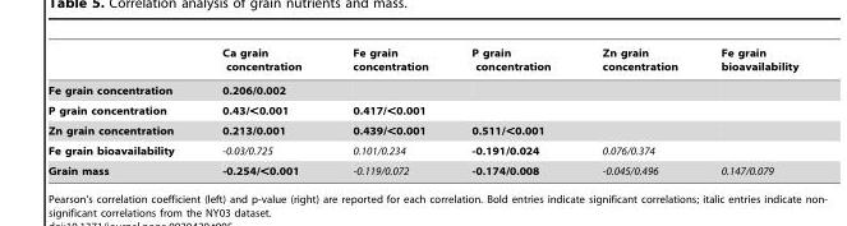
<table><thead><tr><td></td><td>Ca grain concentration</td><td>Fe grain concentration</td><td>P grain concentration</td><td>Zn grain concentration</td><td>Fe grain bioavailability</td></tr></thead><tbody><tr><td>Fe grain concentration</td><td>0.206/0.002</td><td></td><td></td><td></td><td></td></tr><tr><td>P grain concentration</td><td>0.43/&lt;0.001</td><td>0.417/&lt;0.001</td><td></td><td></td><td></td></tr><tr><td>Zn grain concentration</td><td>0.213/0.001</td><td>0.439/&lt;0.001</td><td>0.511/&lt;0.001</td><td></td><td></td></tr><tr><td>Fe grain bioavailability</td><td>-0.03/0.725</td><td>0.101/0.234</td><td>-0.191/0.024</td><td>0.076/0.374</td><td></td></tr><tr><td>Grain mass</td><td>-0.254/&lt;0.001</td><td>-0.119/0.072</td><td>-0.174/0.008</td><td>-0.045/0.496</td><td>0.147/0.079</td></tr></tbody></table>